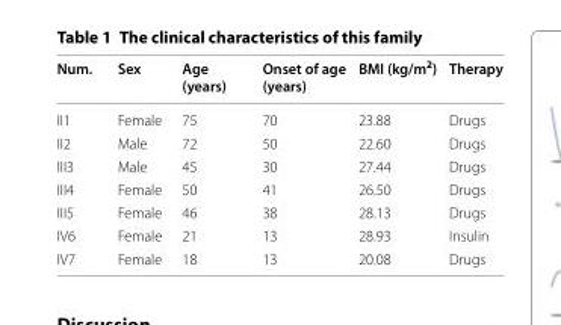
<table><thead><tr><td>Num.</td><td>Sex</td><td>Age (years)</td><td>Onset of age (years)</td><td>BMI (kg/m<sup>2</sup>)</td><td>Therapy</td></tr></thead><tbody><tr><td>II1</td><td>Female</td><td>75</td><td>70</td><td>23.88</td><td>Drugs</td></tr><tr><td>II2</td><td>Male</td><td>72</td><td>50</td><td>22.60</td><td>Drugs</td></tr><tr><td>III3</td><td>Male</td><td>45</td><td>30</td><td>27.44</td><td>Drugs</td></tr><tr><td>III4</td><td>Female</td><td>50</td><td>41</td><td>26.50</td><td>Drugs</td></tr><tr><td>III5</td><td>Female</td><td>46</td><td>38</td><td>28.13</td><td>Drugs</td></tr><tr><td>IV6</td><td>Female</td><td>21</td><td>13</td><td>28.93</td><td>Insulin</td></tr><tr><td>IV7</td><td>Female</td><td>18</td><td>13</td><td>20.08</td><td>Drugs</td></tr></tbody></table>